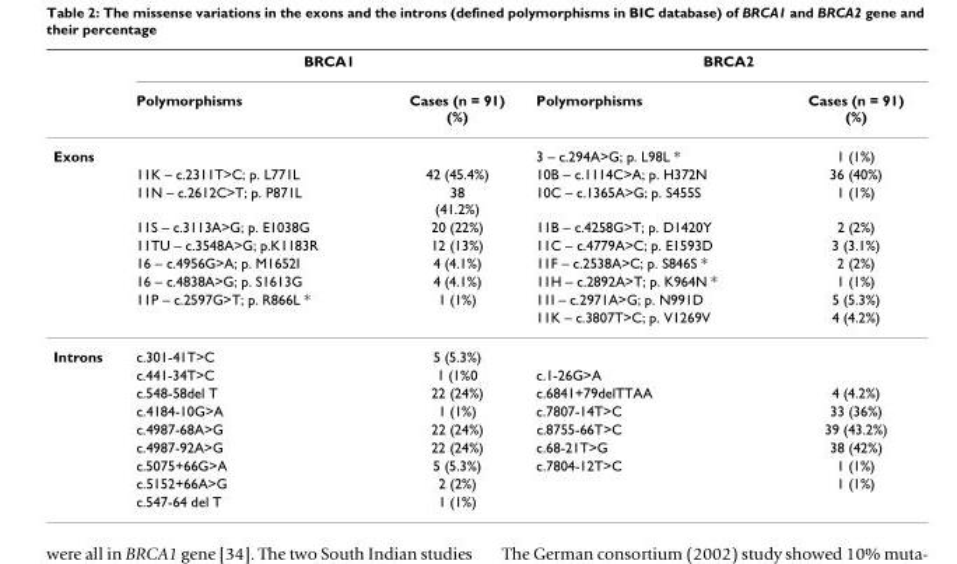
<table><thead><tr><td rowspan="2"></td><td colspan="2">BRCA1</td><td colspan="2">BRCA2</td></tr><tr><td>Polymorphisms</td><td>Cases (n = 91) (%)</td><td>Polymorphisms</td><td>Cases (n = 91) (%)</td></tr></thead><tbody><tr><td rowspan="9">Exons</td><td></td><td></td><td>3 – c.294A&gt;G; p. L98L *</td><td>1 (1%)</td></tr><tr><td>11K – c.2311T&gt;C; p. L771L</td><td>42 (45.4%)</td><td>10B – c.1114C&gt;A; p. H372N</td><td>36 (40%)</td></tr><tr><td>11N – c.2612C&gt;T; p. P871L</td><td>38 (41.2%)</td><td>10C – c.1365A&gt;G; p. S455S</td><td>1 (1%)</td></tr><tr><td>11S – c.3113A&gt;G; p. E1038G</td><td>20 (22%)</td><td>11B – c.4258G&gt;T; p. D1420Y</td><td>2 (2%)</td></tr><tr><td>11TU – c.3548A&gt;G; p.K1183R</td><td>12 (13%)</td><td>11C – c.4779A&gt;C; p. E1593D</td><td>3 (3.1%)</td></tr><tr><td>16 – c.4956G&gt;A; p. M1652I</td><td>4 (4.1%)</td><td>11F – c.2538A&gt;C; p. S846S *</td><td>2 (2%)</td></tr><tr><td>16 – c.4838A&gt;G; p. S1613G</td><td>4 (4.1%)</td><td>11H – c.2892A&gt;T; p. K964N *</td><td>1 (1%)</td></tr><tr><td>11P – c.2597G&gt;T; p. R866L *</td><td>1 (1%)</td><td>11I – c.2971A&gt;G; p. N991D</td><td>5 (5.3%)</td></tr><tr><td></td><td></td><td>11K – c.3807T&gt;C; p. V1269V</td><td>4 (4.2%)</td></tr><tr><td rowspan="9">Introns</td><td>c.301-41T&gt;C</td><td>5 (5.3%)</td><td></td><td></td></tr><tr><td>c.441-34T&gt;C</td><td>1 (1%0</td><td>c.1-26G&gt;A</td><td></td></tr><tr><td>c.548-58del T</td><td>22 (24%)</td><td>c.6841+79delTTAA</td><td>4 (4.2%)</td></tr><tr><td>c.4184-10G&gt;A</td><td>1 (1%)</td><td>c.7807-14T&gt;C</td><td>33 (36%)</td></tr><tr><td>c.4987-68A&gt;G</td><td>22 (24%)</td><td>c.8755-66T&gt;C</td><td>39 (43.2%)</td></tr><tr><td>c.4987-92A&gt;G</td><td>22 (24%)</td><td>c.68-21T&gt;G</td><td>38 (42%)</td></tr><tr><td>c.5075+66G&gt;A</td><td>5 (5.3%)</td><td>c.7804-12T&gt;C</td><td>1 (1%)</td></tr><tr><td>c.5152+66A&gt;G</td><td>2 (2%)</td><td></td><td>1 (1%)</td></tr><tr><td>c.547-64 del T</td><td>1 (1%)</td><td></td><td></td></tr></tbody></table>